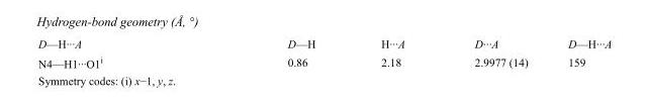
<table><tbody><tr><td>D—H···A</td><td>D—H</td><td>H···A</td><td>D···A</td><td>D—H···A</td></tr><tr><td>N4—H1···O1<sup>i</sup></td><td>0.86</td><td>2.18</td><td>2.9977 (14)</td><td>159</td></tr></tbody></table>